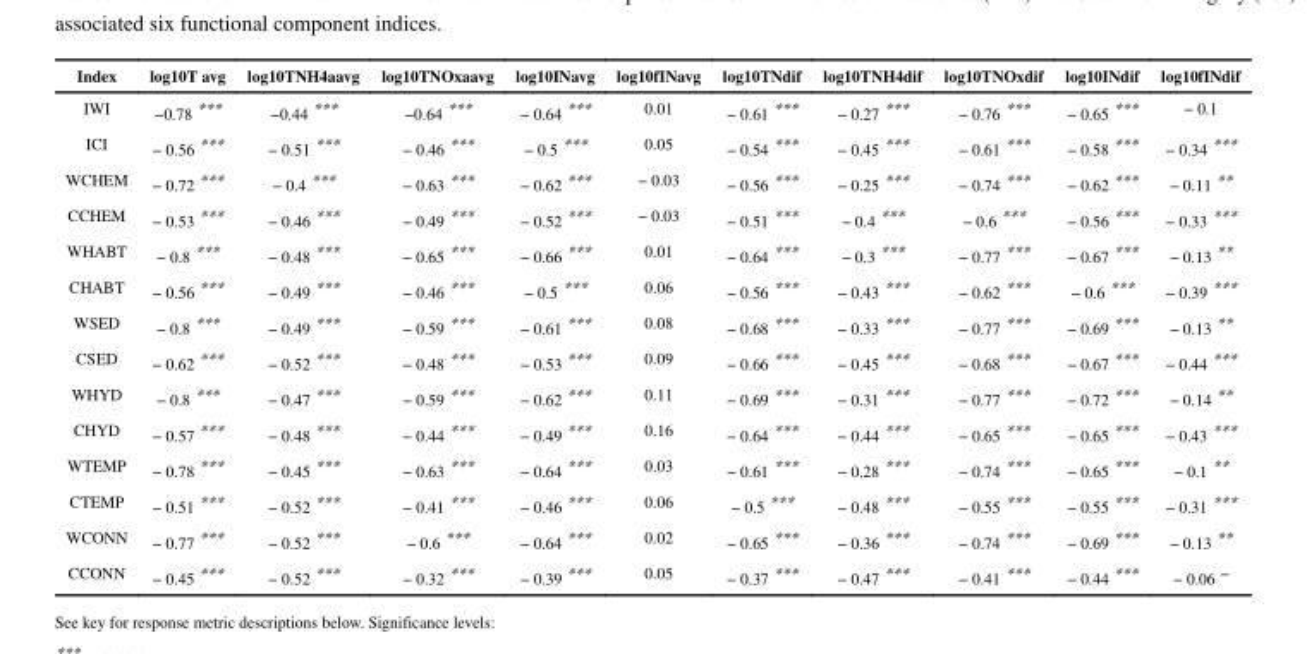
<table><thead><tr><td>Index</td><td>log10T avg</td><td>log10TNH4aavg</td><td>log10TNOxaavg</td><td>log10INavg</td><td>log10fINavg</td><td>log10TNdif</td><td>log10TNH4dif</td><td>log10TNOxdif</td><td>log10INdif</td><td>log10fINdif</td></tr></thead><tbody><tr><td>IWI</td><td>−0.78 ***</td><td>−0.44 ***</td><td>−0.64 ***</td><td>− 0.64 ***</td><td>0.01</td><td>− 0.61 ***</td><td>− 0.27 ***</td><td>− 0.76 ***</td><td>− 0.65 ***</td><td>− 0.1</td></tr><tr><td>ICI</td><td>− 0.56 ***</td><td>− 0.51 ***</td><td>− 0.46 ***</td><td>− 0.5 ***</td><td>0.05</td><td>− 0.54 ***</td><td>− 0.45 ***</td><td>− 0.61 ***</td><td>− 0.58 ***</td><td>− 0.34 ***</td></tr><tr><td>WCHEM</td><td>− 0.72 ***</td><td>− 0.4 ***</td><td>− 0.63 ***</td><td>− 0.62 ***</td><td>− 0.03</td><td>− 0.56 ***</td><td>− 0.25 ***</td><td>− 0.74 ***</td><td>− 0.62 ***</td><td>− 0.11 **</td></tr><tr><td>CCHEM</td><td>− 0.53 ***</td><td>− 0.46 ***</td><td>− 0.49 ***</td><td>− 0.52 ***</td><td>− 0.03</td><td>− 0.51 ***</td><td>− 0.4 ***</td><td>− 0.6 ***</td><td>− 0.56 ***</td><td>− 0.33 ***</td></tr><tr><td>WHABT</td><td>− 0.8 ***</td><td>− 0.48 ***</td><td>− 0.65 ***</td><td>− 0.66 ***</td><td>0.01</td><td>− 0.64 ***</td><td>− 0.3 ***</td><td>− 0.77 ***</td><td>− 0.67 ***</td><td>− 0.13 **</td></tr><tr><td>CHABT</td><td>− 0.56 ***</td><td>− 0.49 ***</td><td>− 0.46 ***</td><td>− 0.5 ***</td><td>0.06</td><td>− 0.56 ***</td><td>− 0.43 ***</td><td>− 0.62 ***</td><td>− 0.6 ***</td><td>− 0.39 ***</td></tr><tr><td>WSED</td><td>− 0.8 ***</td><td>− 0.49 ***</td><td>− 0.59 ***</td><td>− 0.61 ***</td><td>0.08</td><td>− 0.68 ***</td><td>− 0.33 ***</td><td>− 0.77 ***</td><td>− 0.69 ***</td><td>− 0.13 **</td></tr><tr><td>CSED</td><td>− 0.62 ***</td><td>− 0.52 ***</td><td>− 0.48 ***</td><td>− 0.53 ***</td><td>0.09</td><td>− 0.66 ***</td><td>− 0.45 ***</td><td>− 0.68 ***</td><td>− 0.67 ***</td><td>− 0.44 ***</td></tr><tr><td>WHYD</td><td>− 0.8 ***</td><td>− 0.47 ***</td><td>− 0.59 ***</td><td>− 0.62 ***</td><td>0.11</td><td>− 0.69 ***</td><td>− 0.31 ***</td><td>− 0.77 ***</td><td>− 0.72 ***</td><td>− 0.14 **</td></tr><tr><td>CHYD</td><td>− 0.57 ***</td><td>− 0.48 ***</td><td>− 0.44 ***</td><td>− 0.49 ***</td><td>0.16</td><td>− 0.64 ***</td><td>− 0.44 ***</td><td>− 0.65 ***</td><td>− 0.65 ***</td><td>− 0.43 ***</td></tr><tr><td>WTEMP</td><td>− 0.78 ***</td><td>− 0.45 ***</td><td>− 0.63 ***</td><td>− 0.64 ***</td><td>0.03</td><td>− 0.61 ***</td><td>− 0.28 ***</td><td>− 0.74 ***</td><td>− 0.65 ***</td><td>− 0.1 **</td></tr><tr><td>CTEMP</td><td>− 0.51 ***</td><td>− 0.52 ***</td><td>− 0.41 ***</td><td>− 0.46 ***</td><td>0.06</td><td>− 0.5 ***</td><td>− 0.48 ***</td><td>− 0.55 ***</td><td>− 0.55 ***</td><td>− 0.31 ***</td></tr><tr><td>WCONN</td><td>− 0.77 ***</td><td>− 0.52 ***</td><td>− 0.6 ***</td><td>− 0.64 ***</td><td>0.02</td><td>− 0.65 ***</td><td>− 0.36 ***</td><td>− 0.74 ***</td><td>− 0.69 ***</td><td>− 0.13 **</td></tr><tr><td>CCONN</td><td>− 0.45 ***</td><td>− 0.52 ***</td><td>− 0.32 ***</td><td>− 0.39 ***</td><td>0.05</td><td>− 0.37 ***</td><td>− 0.47 ***</td><td>− 0.41 ***</td><td>− 0.44 ***</td><td>− 0.06 −</td></tr></tbody></table>